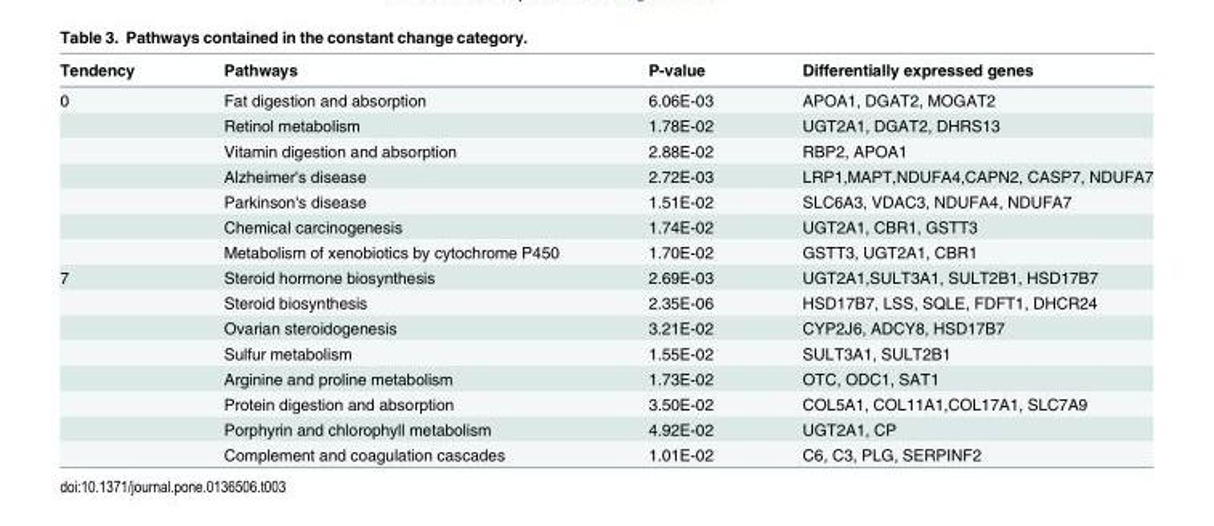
<table><thead><tr><td>Tendency</td><td>Pathways</td><td>P-value</td><td>Differentially expressed genes</td></tr></thead><tbody><tr><td rowspan="7">0</td><td>Fat digestion and absorption</td><td>6.06E-03</td><td>APOA1, DGAT2, MOGAT2</td></tr><tr><td>Retinol metabolism</td><td>1.78E-02</td><td>UGT2A1, DGAT2, DHRS13</td></tr><tr><td>Vitamin digestion and absorption</td><td>2.88E-02</td><td>RBP2, APOA1</td></tr><tr><td>Alzheimer&#x27;s disease</td><td>2.72E-03</td><td>LRP1,MAPT,NDUFA4,CAPN2, CASP7, NDUFA7</td></tr><tr><td>Parkinson&#x27;s disease</td><td>1.51E-02</td><td>SLC6A3, VDAC3, NDUFA4, NDUFA7</td></tr><tr><td>Chemical carcinogenesis</td><td>1.74E-02</td><td>UGT2A1, CBR1, GSTT3</td></tr><tr><td>Metabolism of xenobiotics by cytochrome P450</td><td>1.70E-02</td><td>GSTT3, UGT2A1, CBR1</td></tr><tr><td rowspan="8">7</td><td>Steroid hormone biosynthesis</td><td>2.69E-03</td><td>UGT2A1,SULT3A1, SULT2B1, HSD17B7</td></tr><tr><td>Steroid biosynthesis</td><td>2.35E-06</td><td>HSD17B7, LSS, SQLE, FDFT1, DHCR24</td></tr><tr><td>Ovarian steroidogenesis</td><td>3.21E-02</td><td>CYP2J6, ADCY8, HSD17B7</td></tr><tr><td>Sulfur metabolism</td><td>1.55E-02</td><td>SULT3A1, SULT2B1</td></tr><tr><td>Arginine and proline metabolism</td><td>1.73E-02</td><td>OTC, ODC1, SAT1</td></tr><tr><td>Protein digestion and absorption</td><td>3.50E-02</td><td>COL5A1, COL11A1,COL17A1, SLC7A9</td></tr><tr><td>Porphyrin and chlorophyll metabolism</td><td>4.92E-02</td><td>UGT2A1, CP</td></tr><tr><td>Complement and coagulation cascades</td><td>1.01E-02</td><td>C6, C3, PLG, SERPINF2</td></tr></tbody></table>